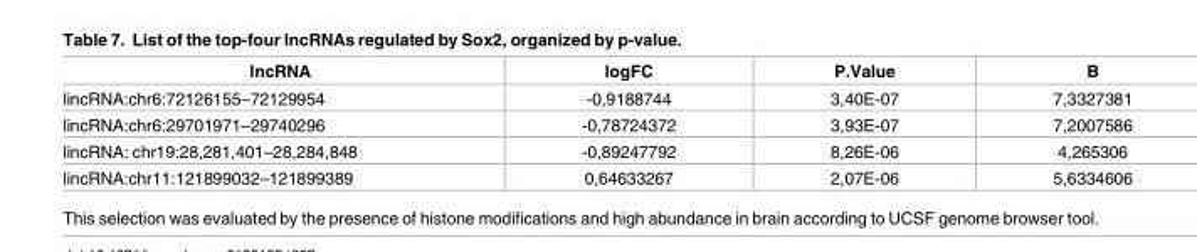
<table><thead><tr><td>lncRNA</td><td>logFC</td><td>P.Value</td><td>B</td></tr></thead><tbody><tr><td>lincRNA:chr6:72126155–72129954</td><td>-0,9188744</td><td>3,40E-07</td><td>7,3327381</td></tr><tr><td>lincRNA:chr6:29701971–29740296</td><td>-0,78724372</td><td>3,93E-07</td><td>7,2007586</td></tr><tr><td>lincRNA: chr19:28,281,401–28,284,848</td><td>-0,89247792</td><td>8,26E-06</td><td>4,265306</td></tr><tr><td>lincRNA:chr11:121899032–121899389</td><td>0,64633267</td><td>2,07E-06</td><td>5,6334606</td></tr></tbody></table>